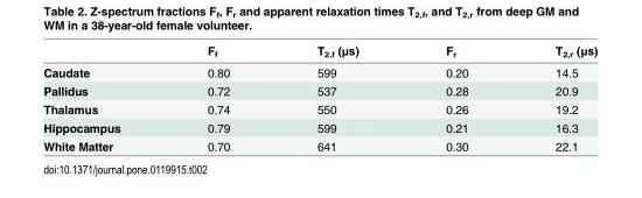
<table><thead><tr><td></td><td>F<sub>f</sub></td><td>T<sub>2,f</sub> (μs)</td><td>F<sub>r</sub></td><td>T<sub>2,r</sub> (μs)</td></tr></thead><tbody><tr><td>Caudate</td><td>0.80</td><td>599</td><td>0.20</td><td>14.5</td></tr><tr><td>Pallidus</td><td>0.72</td><td>537</td><td>0.28</td><td>20.9</td></tr><tr><td>Thalamus</td><td>0.74</td><td>550</td><td>0.26</td><td>19.2</td></tr><tr><td>Hippocampus</td><td>0.79</td><td>599</td><td>0.21</td><td>16.3</td></tr><tr><td>White Matter</td><td>0.70</td><td>641</td><td>0.30</td><td>22.1</td></tr></tbody></table>